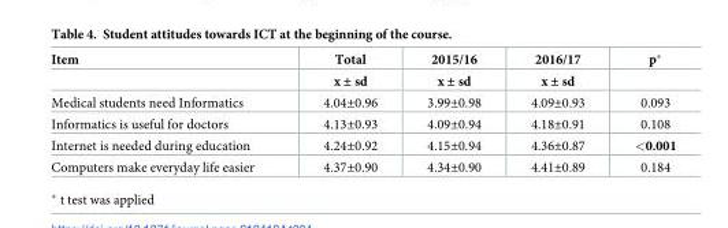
<table><thead><tr><td rowspan="2">Item</td><td rowspan="2">Total x ± sd</td><td rowspan="2">2015/16 x ± sd</td><td rowspan="2">2016/17 x ± sd</td><td rowspan="2">p*</td></tr><tr></tr></thead><tbody><tr><td>Medical students need Informatics</td><td>4.04±0.96</td><td>3.99±0.98</td><td>4.09±0.93</td><td>0.093</td></tr><tr><td>Informatics is useful for doctors</td><td>4.13±0.93</td><td>4.09±0.94</td><td>4.18±0.91</td><td>0.108</td></tr><tr><td>Internet is needed during education</td><td>4.24±0.92</td><td>4.15±0.94</td><td>4.36±0.87</td><td>&lt;0.001</td></tr><tr><td>Computers make everyday life easier</td><td>4.37±0.90</td><td>4.34±0.90</td><td>4.41±0.89</td><td>0.184</td></tr></tbody></table>